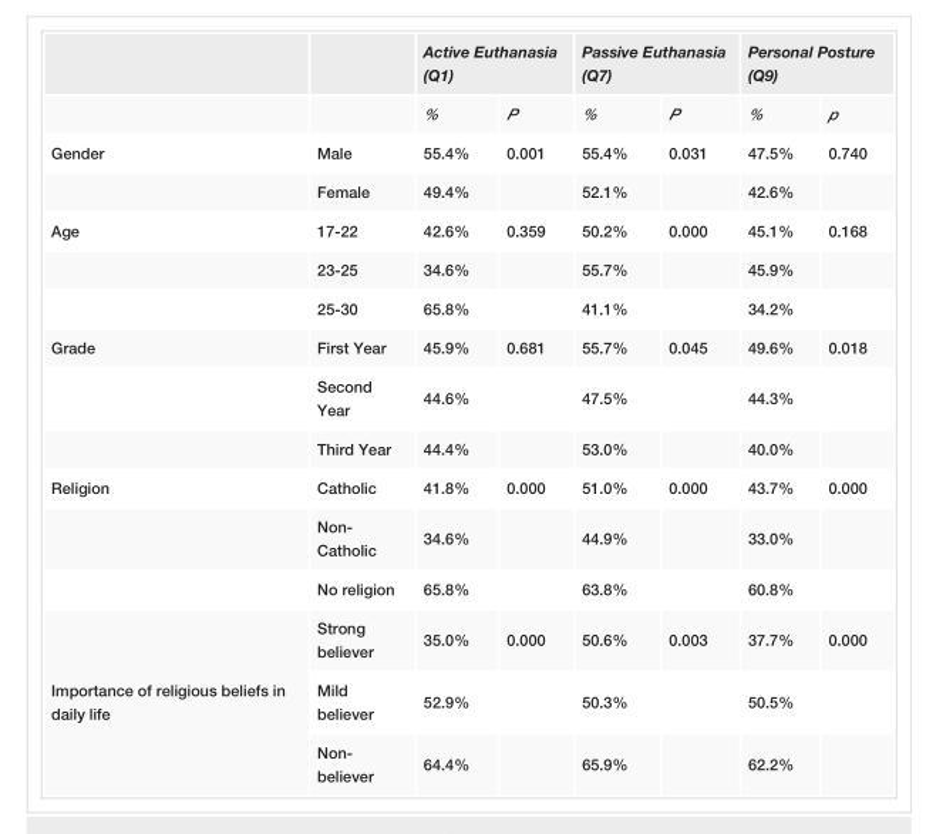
<table><thead><tr><td rowspan="2"></td><td rowspan="2"></td><td colspan="2">Active Euthanasia (Q1)</td><td colspan="2">Passive Euthanasia (Q7)</td><td colspan="2">Personal Posture (Q9)</td></tr><tr><td>%</td><td>P</td><td>%</td><td>P</td><td>%</td><td>p</td></tr></thead><tbody><tr><td rowspan="2">Gender</td><td>Male</td><td>55.4%</td><td>0.001</td><td>55.4%</td><td>0.031</td><td>47.5%</td><td>0.740</td></tr><tr><td>Female</td><td>49.4%</td><td></td><td>52.1%</td><td></td><td>42.6%</td><td></td></tr><tr><td rowspan="3">Age</td><td>17-22</td><td>42.6%</td><td>0.359</td><td>50.2%</td><td>0.000</td><td>45.1%</td><td>0.168</td></tr><tr><td>23-25</td><td>34.6%</td><td></td><td>55.7%</td><td></td><td>45.9%</td><td></td></tr><tr><td>25-30</td><td>65.8%</td><td></td><td>41.1%</td><td></td><td>34.2%</td><td></td></tr><tr><td rowspan="3">Grade</td><td>First Year</td><td>45.9%</td><td>0.681</td><td>55.7%</td><td>0.045</td><td>49.6%</td><td>0.018</td></tr><tr><td>Second Year</td><td>44.6%</td><td></td><td>47.5%</td><td></td><td>44.3%</td><td></td></tr><tr><td>Third Year</td><td>44.4%</td><td></td><td>53.0%</td><td></td><td>40.0%</td><td></td></tr><tr><td rowspan="3">Religion</td><td>Catholic</td><td>41.8%</td><td>0.000</td><td>51.0%</td><td>0.000</td><td>43.7%</td><td>0.000</td></tr><tr><td>Non- Catholic</td><td>34.6%</td><td></td><td>44.9%</td><td></td><td>33.0%</td><td></td></tr><tr><td>No religion</td><td>65.8%</td><td></td><td>63.8%</td><td></td><td>60.8%</td><td></td></tr><tr><td rowspan="3">Importance of religious beliefs in daily life</td><td>Strong believer</td><td>35.0%</td><td>0.000</td><td>50.6%</td><td>0.003</td><td>37.7%</td><td>0.000</td></tr><tr><td>Mild believer</td><td>52.9%</td><td></td><td>50.3%</td><td></td><td>50.5%</td><td></td></tr><tr><td>Non- believer</td><td>64.4%</td><td></td><td>65.9%</td><td></td><td>62.2%</td><td></td></tr></tbody></table>